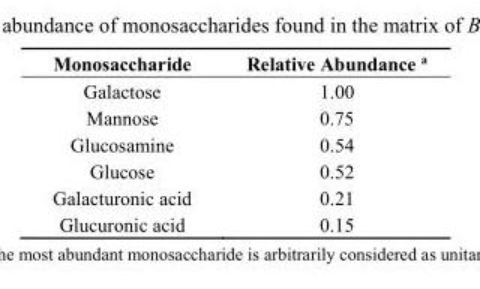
<table><thead><tr><td>Monosaccharide</td><td>Relative Abundance <sup>a</sup></td></tr></thead><tbody><tr><td>Galactose</td><td>1.00</td></tr><tr><td>Mannose</td><td>0.75</td></tr><tr><td>Glucosamine</td><td>0.54</td></tr><tr><td>Glucose</td><td>0.52</td></tr><tr><td>Galacturonic acid</td><td>0.21</td></tr><tr><td>Glucuronic acid</td><td>0.15</td></tr></tbody></table>